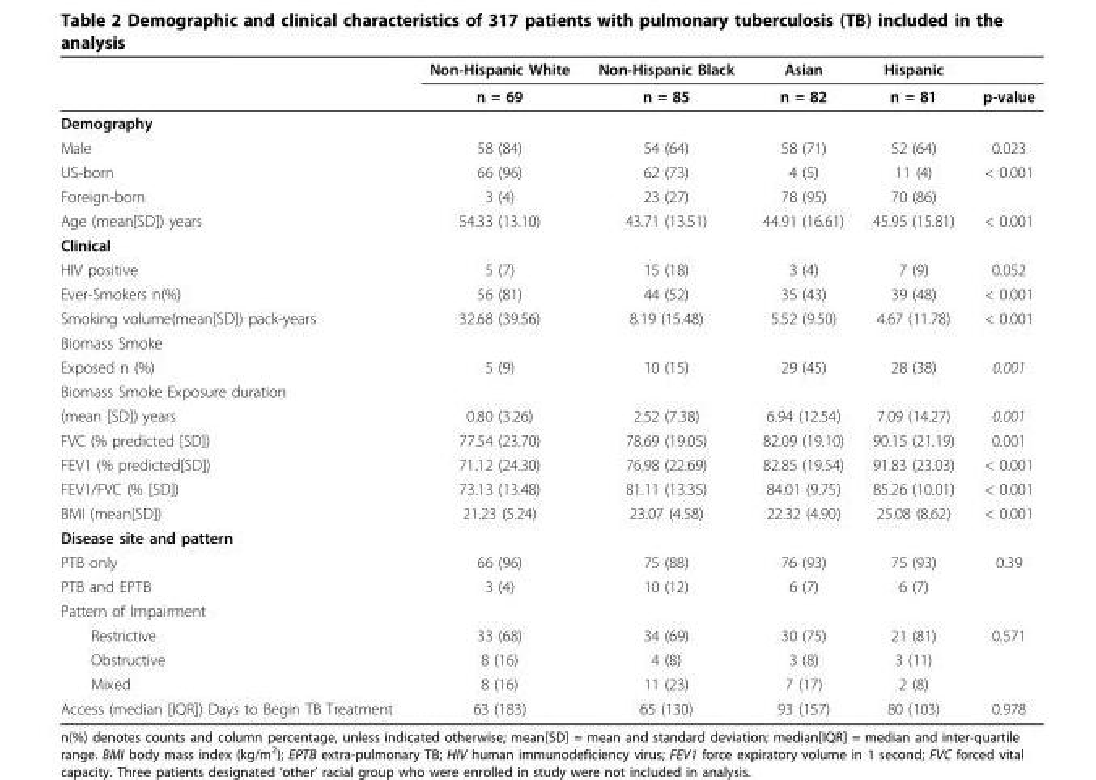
<table><thead><tr><td rowspan="2"></td><td rowspan="2">Non-Hispanic White n = 69</td><td rowspan="2">Non-Hispanic Black n = 85</td><td rowspan="2">Asian n = 82</td><td rowspan="2">Hispanic n = 81</td><td rowspan="2">p-value</td></tr><tr></tr></thead><tbody><tr><td colspan="6">Demography</td></tr><tr><td>Male</td><td>58 (84)</td><td>54 (64)</td><td>58 (71)</td><td>52 (64)</td><td>0.023</td></tr><tr><td>US-born</td><td>66 (96)</td><td>62 (73)</td><td>4 (5)</td><td>11 (4)</td><td>&lt; 0.001</td></tr><tr><td>Foreign-born</td><td>3 (4)</td><td>23 (27)</td><td>78 (95)</td><td>70 (86)</td><td></td></tr><tr><td>Age (mean[SD]) years</td><td>54.33 (13.10)</td><td>43.71 (13.51)</td><td>44.91 (16.61)</td><td>45.95 (15.81)</td><td>&lt; 0.001</td></tr><tr><td colspan="6">Clinical</td></tr><tr><td>HIV positive</td><td>5 (7)</td><td>15 (18)</td><td>3 (4)</td><td>7 (9)</td><td>0.052</td></tr><tr><td>Ever-Smokers n(%)</td><td>56 (81)</td><td>44 (52)</td><td>35 (43)</td><td>39 (48)</td><td>&lt; 0.001</td></tr><tr><td>Smoking volume(mean[SD]) pack-years</td><td>32.68 (39.56)</td><td>8.19 (15.48)</td><td>5.52 (9.50)</td><td>4.67 (11.78)</td><td>&lt; 0.001</td></tr><tr><td colspan="6">Biomass Smoke</td></tr><tr><td>Exposed n (%)</td><td>5 (9)</td><td>10 (15)</td><td>29 (45)</td><td>28 (38)</td><td>0.001</td></tr><tr><td colspan="6">Biomass Smoke Exposure duration</td></tr><tr><td>(mean [SD]) years</td><td>0.80 (3.26)</td><td>2.52 (7.38)</td><td>6.94 (12.54)</td><td>7.09 (14.27)</td><td>0.001</td></tr><tr><td>FVC (% predicted [SD])</td><td>77.54 (23.70)</td><td>78.69 (19.05)</td><td>82.09 (19.10)</td><td>90.15 (21.19)</td><td>0.001</td></tr><tr><td>FEV1 (% predicted[SD])</td><td>71.12 (24.30)</td><td>76.98 (22.69)</td><td>82.85 (19.54)</td><td>91.83 (23.03)</td><td>&lt; 0.001</td></tr><tr><td>FEV1/FVC (% [SD])</td><td>73.13 (13.48)</td><td>81.11 (13.35)</td><td>84.01 (9.75)</td><td>85.26 (10.01)</td><td>&lt; 0.001</td></tr><tr><td>BMI (mean[SD])</td><td>21.23 (5.24)</td><td>23.07 (4.58)</td><td>22.32 (4.90)</td><td>25.08 (8.62)</td><td>&lt; 0.001</td></tr><tr><td colspan="6">Disease site and pattern</td></tr><tr><td>PTB only</td><td>66 (96)</td><td>75 (88)</td><td>76 (93)</td><td>75 (93)</td><td>0.39</td></tr><tr><td>PTB and EPTB</td><td>3 (4)</td><td>10 (12)</td><td>6 (7)</td><td>6 (7)</td><td></td></tr><tr><td colspan="6">Pattern of Impairment</td></tr><tr><td>Restrictive</td><td>33 (68)</td><td>34 (69)</td><td>30 (75)</td><td>21 (81)</td><td>0.571</td></tr><tr><td>Obstructive</td><td>8 (16)</td><td>4 (8)</td><td>3 (8)</td><td>3 (11)</td><td></td></tr><tr><td>Mixed</td><td>8 (16)</td><td>11 (23)</td><td>7 (17)</td><td>2 (8)</td><td></td></tr><tr><td>Access (median [IQR]) Days to Begin TB Treatment</td><td>63 (183)</td><td>65 (130)</td><td>93 (157)</td><td>80 (103)</td><td>0.978</td></tr></tbody></table>